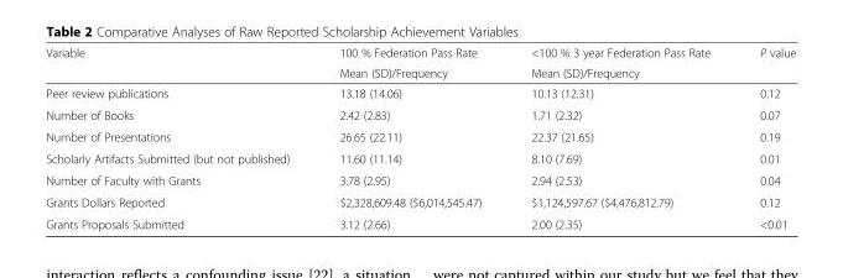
<table><thead><tr><td rowspan="2">Variable</td><td rowspan="2">100 % Federation Pass Rate Mean (SD)/Frequency</td><td rowspan="2">&lt;100 % 3 year Federation Pass Rate Mean (SD)/Frequency</td><td rowspan="2">P value</td></tr><tr></tr></thead><tbody><tr><td>Peer review publications</td><td>13.18 (14.06)</td><td>10.13 (12.31)</td><td>0.12</td></tr><tr><td>Number of Books</td><td>2.42 (2.83)</td><td>1.71 (2.32)</td><td>0.07</td></tr><tr><td>Number of Presentations</td><td>26.65 (22.11)</td><td>22.37 (21.65)</td><td>0.19</td></tr><tr><td>Scholarly Artifacts Submitted (but not published)</td><td>11.60 (11.14)</td><td>8.10 (7.69)</td><td>0.01</td></tr><tr><td>Number of Faculty with Grants</td><td>3.78 (2.95)</td><td>2.94 (2.53)</td><td>0.04</td></tr><tr><td>Grants Dollars Reported</td><td>$2,328,609.48 ($6,014,545.47)</td><td>$1,124,597.67 ($4,476,812.79)</td><td>0.12</td></tr><tr><td>Grants Proposals Submitted</td><td>3.12 (2.66)</td><td>2.00 (2.35)</td><td>&lt;0.01</td></tr></tbody></table>